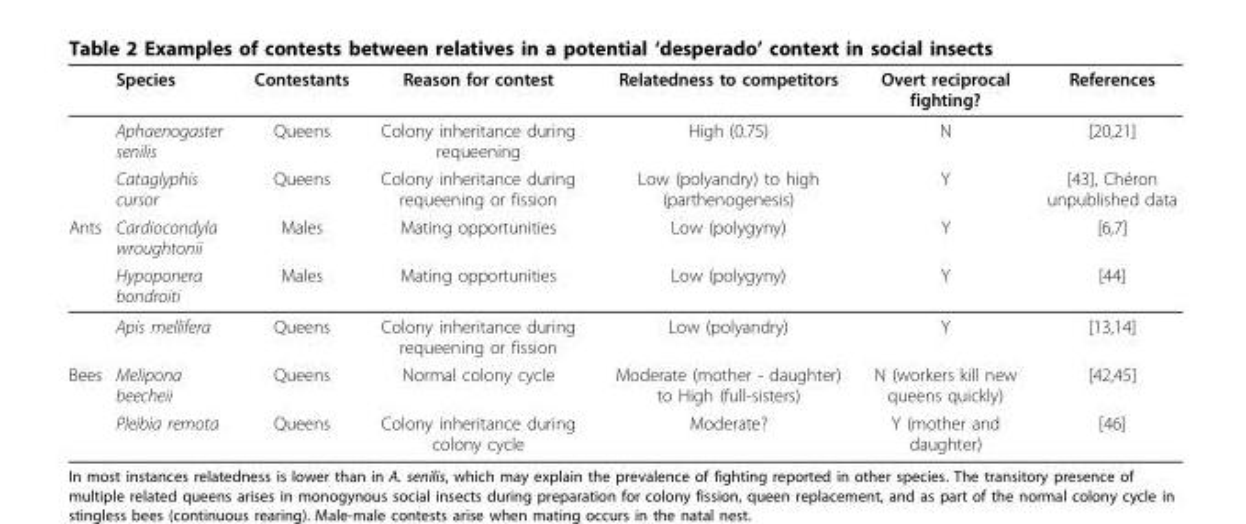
<table><thead><tr><td></td><td>Species</td><td>Contestants</td><td>Reason for contest</td><td>Relatedness to competitors</td><td>Overt reciprocal fighting?</td><td>References</td></tr></thead><tbody><tr><td></td><td>Aphaenogaster senilis</td><td>Queens</td><td>Colony inheritance during requeening</td><td>High (0.75)</td><td>N</td><td>[20,21]</td></tr><tr><td></td><td>Cataglyphis cursor</td><td>Queens</td><td>Colony inheritance during requeening or fission</td><td>Low (polyandry) to high (parthenogenesis)</td><td>Y</td><td>[43], Chéron unpublished data</td></tr><tr><td rowspan="3">Ants</td><td>Cardiocondyla wroughtonii</td><td>Males</td><td>Mating opportunities</td><td>Low (polygyny)</td><td>Y</td><td>[6,7]</td></tr><tr><td>Hypoponera bondroiti</td><td>Males</td><td>Mating opportunities</td><td>Low (polygyny)</td><td>Y</td><td>[44]</td></tr><tr><td>Apis mellifera</td><td>Queens</td><td>Colony inheritance during requeening or fission</td><td>Low (polyandry)</td><td>Y</td><td>[13,14]</td></tr><tr><td rowspan="2">Bees</td><td>Melipona beecheii</td><td>Queens</td><td>Normal colony cycle</td><td>Moderate (mother - daughter) to High (full-sisters)</td><td>N (workers kill new queens quickly)</td><td>[42,45]</td></tr><tr><td>Pleibia remota</td><td>Queens</td><td>Colony inheritance during colony cycle</td><td>Moderate?</td><td>Y (mother and daughter)</td><td>[46]</td></tr></tbody></table>